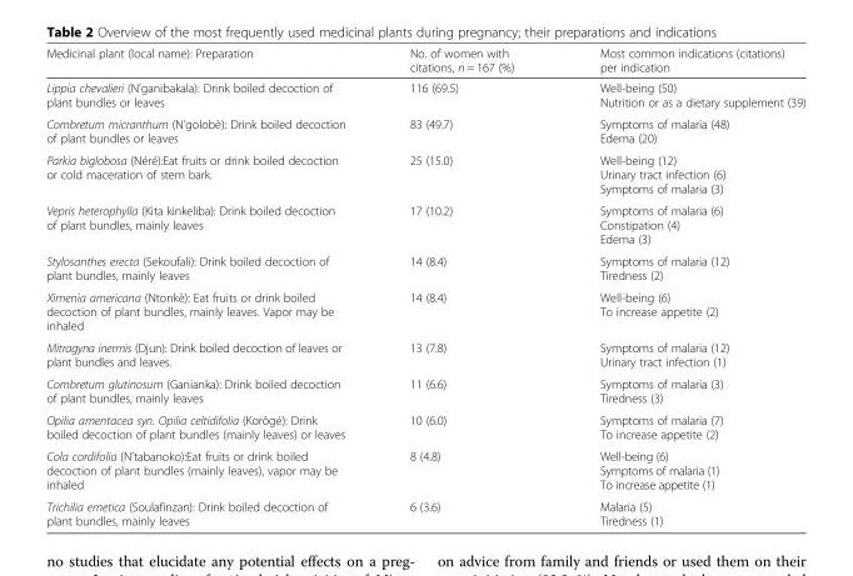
<table><thead><tr><td>Medicinal plant (local name): Preparation</td><td>No. of women with citations, n = 167 (%)</td><td>Most common indications (citations) per indication</td></tr></thead><tbody><tr><td>Lippia chevalieri (N’ganibakala): Drink boiled decoction of plant bundles or leaves</td><td>116 (69.5)</td><td>Well-being (50) Nutrition or as a dietary supplement (39)</td></tr><tr><td>Combretum micranthum (N’golobè): Drink boiled decoction of plant bundles or leaves</td><td>83 (49.7)</td><td>Symptoms of malaria (48) Edema (20)</td></tr><tr><td>Parkia biglobosa (Néré):Eat fruits or drink boiled decoction or cold maceration of stem bark.</td><td>25 (15.0)</td><td>Well-being (12) Urinary tract infection (6) Symptoms of malaria (3)</td></tr><tr><td>Vepris heterophylla (Kita kinkeliba): Drink boiled decoction of plant bundles, mainly leaves</td><td>17 (10.2)</td><td>Symptoms of malaria (6) Constipation (4) Edema (3)</td></tr><tr><td>Stylosanthes erecta (Sekoufali): Drink boiled decoction of plant bundles, mainly leaves</td><td>14 (8.4)</td><td>Symptoms of malaria (12) Tiredness (2)</td></tr><tr><td>Ximenia americana (Ntonkè): Eat fruits or drink boiled decoction of plant bundles, mainly leaves. Vapor may be inhaled</td><td>14 (8.4)</td><td>Well-being (6) To increase appetite (2)</td></tr><tr><td>Mitragyna inermis (Djun): Drink boiled decoction of leaves or plant bundles and leaves.</td><td>13 (7.8)</td><td>Symptoms of malaria (12) Urinary tract infection (1)</td></tr><tr><td>Combretum glutinosum (Ganianka): Drink boiled decoction of plant bundles, mainly leaves</td><td>11 (6.6)</td><td>Symptoms of malaria (3) Tiredness (3)</td></tr><tr><td>Opilia amentacea syn. Opilia celtidifolia (Korôgé): Drink boiled decoction of plant bundles (mainly leaves) or leaves</td><td>10 (6.0)</td><td>Symptoms of malaria (7) To increase appetite (2)</td></tr><tr><td>Cola cordifolia (N’tabanoko):Eat fruits or drink boiled decoction of plant bundles (mainly leaves), vapor may be inhaled</td><td>8 (4.8)</td><td>Well-being (6) Symptoms of malaria (1) To increase appetite (1)</td></tr><tr><td>Trichilia emetica (Soulafinzan): Drink boiled decoction of plant bundles, mainly leaves</td><td>6 (3.6)</td><td>Malaria (5) Tiredness (1)</td></tr></tbody></table>